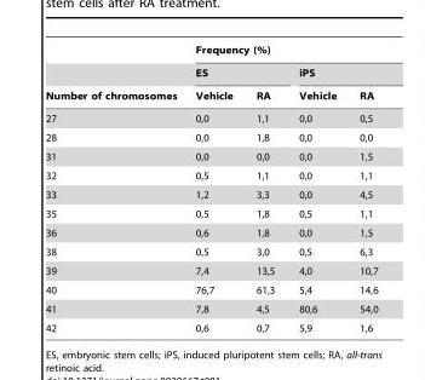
<table><thead><tr><td rowspan="3">Number of chromosomes</td><td colspan="4">Frequency (%)</td></tr><tr><td colspan="2">ES</td><td colspan="2">iPS</td></tr><tr><td>Vehicle</td><td>RA</td><td>Vehicle</td><td>RA</td></tr></thead><tbody><tr><td>27</td><td>0,0</td><td>1,1</td><td>0,0</td><td>0,5</td></tr><tr><td>28</td><td>0,0</td><td>1,8</td><td>0,0</td><td>0,0</td></tr><tr><td>31</td><td>0,0</td><td>0,0</td><td>0,0</td><td>1,5</td></tr><tr><td>32</td><td>0,5</td><td>1,1</td><td>0,0</td><td>1,1</td></tr><tr><td>33</td><td>1,2</td><td>3,3</td><td>0,0</td><td>4,5</td></tr><tr><td>35</td><td>0,5</td><td>1,8</td><td>0,5</td><td>1,1</td></tr><tr><td>36</td><td>0,6</td><td>1,8</td><td>0,0</td><td>1,5</td></tr><tr><td>38</td><td>0,5</td><td>3,0</td><td>0,5</td><td>6,3</td></tr><tr><td>39</td><td>7,4</td><td>13,5</td><td>4,0</td><td>10,7</td></tr><tr><td>40</td><td>76,7</td><td>61,3</td><td>5,4</td><td>14,6</td></tr><tr><td>41</td><td>7,8</td><td>4,5</td><td>80,6</td><td>54,0</td></tr><tr><td>42</td><td>0,6</td><td>0,7</td><td>5,9</td><td>1,6</td></tr></tbody></table>